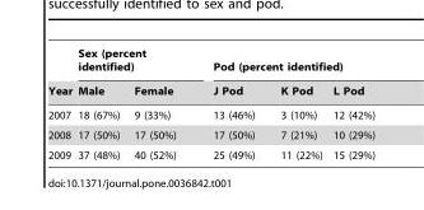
<table><thead><tr><td rowspan="2">Year</td><td colspan="2">Sex (percent identified)</td><td colspan="3">Pod (percent identified)</td></tr><tr><td>Male</td><td>Female</td><td>J Pod</td><td>K Pod</td><td>L Pod</td></tr></thead><tbody><tr><td>2007</td><td>18 (67%)</td><td>9 (33%)</td><td>13 (46%)</td><td>3 (10%)</td><td>12 (42%)</td></tr><tr><td>2008</td><td>17 (50%)</td><td>17 (50%)</td><td>17 (50%)</td><td>7 (21%)</td><td>10 (29%)</td></tr><tr><td>2009</td><td>37 (48%)</td><td>40 (52%)</td><td>25 (49%)</td><td>11 (22%)</td><td>15 (29%)</td></tr></tbody></table>